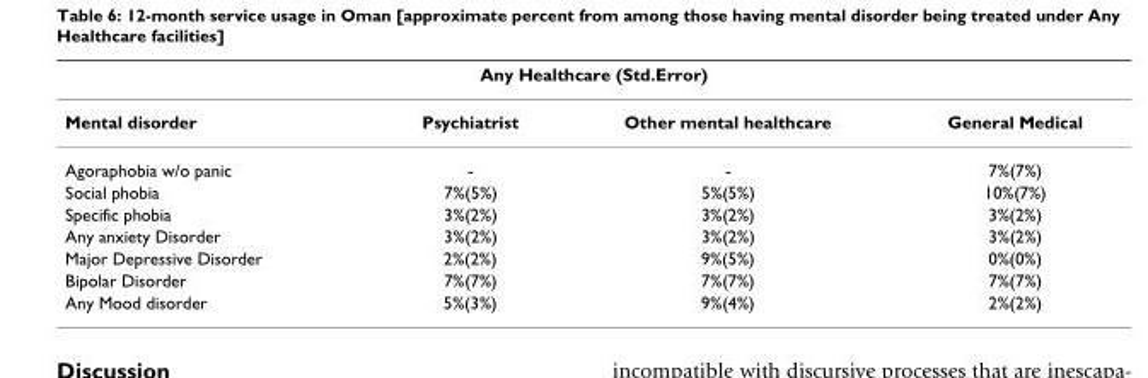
<table><thead><tr><td colspan="4">Any Healthcare (Std.Error)</td></tr><tr><td>Mental disorder</td><td>Psychiatrist</td><td>Other mental healthcare</td><td>General Medical</td></tr></thead><tbody><tr><td>Agoraphobia w/o panic</td><td>-</td><td>-</td><td>7%(7%)</td></tr><tr><td>Social phobia</td><td>7%(5%)</td><td>5%(5%)</td><td>10%(7%)</td></tr><tr><td>Specific phobia</td><td>3%(2%)</td><td>3%(2%)</td><td>3%(2%)</td></tr><tr><td>Any anxiety Disorder</td><td>3%(2%)</td><td>3%(2%)</td><td>3%(2%)</td></tr><tr><td>Major Depressive Disorder</td><td>2%(2%)</td><td>9%(5%)</td><td>0%(0%)</td></tr><tr><td>Bipolar Disorder</td><td>7%(7%)</td><td>7%(7%)</td><td>7%(7%)</td></tr><tr><td>Any Mood disorder</td><td>5%(3%)</td><td>9%(4%)</td><td>2%(2%)</td></tr></tbody></table>